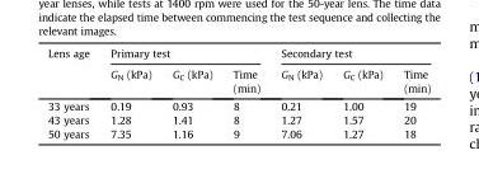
<table><thead><tr><td rowspan="2">Lens age</td><td colspan="3">Primary test</td><td colspan="3">Secondary test</td></tr><tr><td>G<sub>N</sub> (kPa)</td><td>G<sub>C</sub> (kPa)</td><td>Time (min)</td><td>G<sub>N</sub> (kPa)</td><td>G<sub>C</sub> (kPa)</td><td>Time (min)</td></tr></thead><tbody><tr><td>33 years</td><td>0.19</td><td>0.93</td><td>8</td><td>0.21</td><td>1.00</td><td>19</td></tr><tr><td>43 years</td><td>1.28</td><td>1.41</td><td>8</td><td>1.27</td><td>1.57</td><td>20</td></tr><tr><td>50 years</td><td>7.35</td><td>1.16</td><td>9</td><td>7.06</td><td>1.27</td><td>18</td></tr></tbody></table>